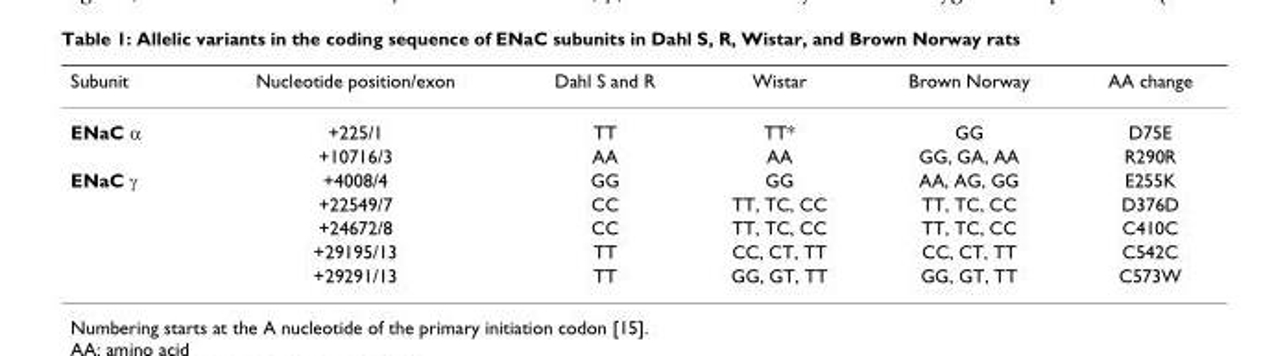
<table><thead><tr><td>Subunit</td><td>Nucleotide position/exon</td><td>Dahl S and R</td><td>Wistar</td><td>Brown Norway</td><td>AA change</td></tr></thead><tbody><tr><td rowspan="2">ENaC α</td><td>+225/1</td><td>TT</td><td>TT*</td><td>GG</td><td>D75E</td></tr><tr><td>+10716/3</td><td>AA</td><td>AA</td><td>GG, GA, AA</td><td>R290R</td></tr><tr><td rowspan="5">ENaC γ</td><td>+4008/4</td><td>GG</td><td>GG</td><td>AA, AG, GG</td><td>E255K</td></tr><tr><td>+22549/7</td><td>CC</td><td>TT, TC, CC</td><td>TT, TC, CC</td><td>D376D</td></tr><tr><td>+24672/8</td><td>CC</td><td>TT, TC, CC</td><td>TT, TC, CC</td><td>C410C</td></tr><tr><td>+29195/13</td><td>TT</td><td>CC, CT, TT</td><td>CC, CT, TT</td><td>C542C</td></tr><tr><td>+29291/13</td><td>TT</td><td>GG, GT, TT</td><td>GG, GT, TT</td><td>C573W</td></tr></tbody></table>